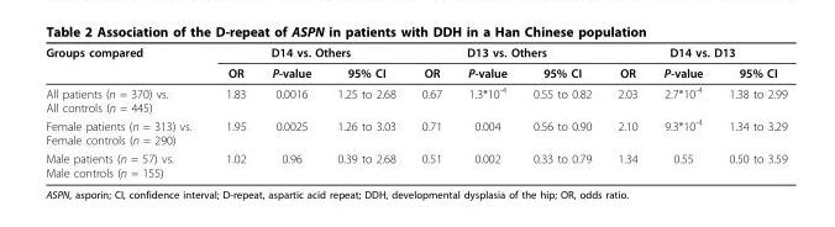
<table><thead><tr><td rowspan="2">Groups compared</td><td colspan="3">D14 vs. Others</td><td colspan="3">D13 vs. Others</td><td colspan="3">D14 vs. D13</td></tr><tr><td>OR</td><td>P-value</td><td>95% CI</td><td>OR</td><td>P-value</td><td>95% CI</td><td>OR</td><td>P-value</td><td>95% CI</td></tr></thead><tbody><tr><td>All patients (n = 370) vs. All controls (n = 445)</td><td>1.83</td><td>0.0016</td><td>1.25 to 2.68</td><td>0.67</td><td>1.3*10<sup>-4</sup></td><td>0.55 to 0.82</td><td>2.03</td><td>2.7*10<sup>-4</sup></td><td>1.38 to 2.99</td></tr><tr><td>Female patients (n = 313) vs. Female controls (n = 290)</td><td>1.95</td><td>0.0025</td><td>1.26 to 3.03</td><td>0.71</td><td>0.004</td><td>0.56 to 0.90</td><td>2.10</td><td>9.3*10<sup>-4</sup></td><td>1.34 to 3.29</td></tr><tr><td>Male patients (n = 57) vs. Male controls (n = 155)</td><td>1.02</td><td>0.96</td><td>0.39 to 2.68</td><td>0.51</td><td>0.002</td><td>0.33 to 0.79</td><td>1.34</td><td>0.55</td><td>0.50 to 3.59</td></tr></tbody></table>